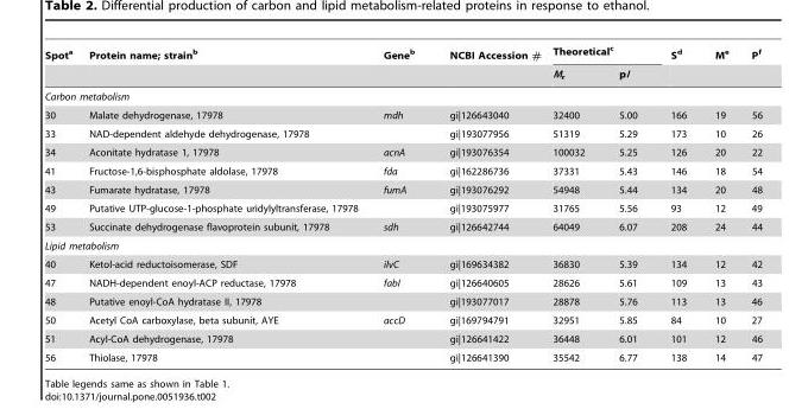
<table><thead><tr><td rowspan="2">Spot<sup>a</sup></td><td rowspan="2">Protein name; strain<sup>b</sup></td><td rowspan="2">Gene<sup>b</sup></td><td rowspan="2">NCBI Accession #</td><td colspan="2">Theoretical<sup>c</sup></td><td rowspan="2">S<sup>d</sup></td><td rowspan="2">M<sup>e</sup></td><td rowspan="2">P<sup>f</sup></td></tr><tr><td>M<sub>r</sub></td><td>pI</td></tr></thead><tbody><tr><td colspan="9">Carbon metabolism</td></tr><tr><td>30</td><td>Malate dehydrogenase, 17978</td><td>mdh</td><td>gi|126643040</td><td>32400</td><td>5.00</td><td>166</td><td>19</td><td>56</td></tr><tr><td>33</td><td>NAD-dependent aldehyde dehydrogenase, 17978</td><td></td><td>gi|193077956</td><td>51319</td><td>5.29</td><td>173</td><td>10</td><td>26</td></tr><tr><td>34</td><td>Aconitate hydratase 1, 17978</td><td>acnA</td><td>gi|193076354</td><td>100032</td><td>5.25</td><td>126</td><td>20</td><td>22</td></tr><tr><td>41</td><td>Fructose-1,6-bisphosphate aldolase, 17978</td><td>fda</td><td>gi|162286736</td><td>37331</td><td>5.43</td><td>146</td><td>18</td><td>54</td></tr><tr><td>43</td><td>Fumarate hydratase, 17978</td><td>fumA</td><td>gi|193076292</td><td>54948</td><td>5.44</td><td>134</td><td>20</td><td>48</td></tr><tr><td>49</td><td>Putative UTP-glucose-1-phosphate uridylyltransferase, 17978</td><td></td><td>gi|193075977</td><td>31765</td><td>5.56</td><td>93</td><td>12</td><td>49</td></tr><tr><td>53</td><td>Succinate dehydrogenase flavoprotein subunit, 17978</td><td>sdh</td><td>gi|126642744</td><td>64049</td><td>6.07</td><td>208</td><td>24</td><td>44</td></tr><tr><td colspan="9">Lipid metabolism</td></tr><tr><td>40</td><td>Ketol-acid reductoisomerase, SDF</td><td>ilvC</td><td>gi|169634382</td><td>36830</td><td>5.39</td><td>134</td><td>12</td><td>42</td></tr><tr><td>47</td><td>NADH-dependent enoyl-ACP reductase, 17978</td><td>fabI</td><td>gi|126640605</td><td>28626</td><td>5.61</td><td>109</td><td>13</td><td>43</td></tr><tr><td>48</td><td>Putative enoyl-CoA hydratase II, 17978</td><td></td><td>gi|193077017</td><td>28878</td><td>5.76</td><td>113</td><td>13</td><td>46</td></tr><tr><td>50</td><td>Acetyl CoA carboxylase, beta subunit, AYE</td><td>accD</td><td>gi|169794791</td><td>32951</td><td>5.85</td><td>84</td><td>10</td><td>27</td></tr><tr><td>51</td><td>Acyl-CoA dehydrogenase, 17978</td><td></td><td>gi|126641422</td><td>36448</td><td>6.01</td><td>101</td><td>12</td><td>46</td></tr><tr><td>56</td><td>Thiolase, 17978</td><td></td><td>gi|126641390</td><td>35542</td><td>6.77</td><td>138</td><td>14</td><td>47</td></tr></tbody></table>